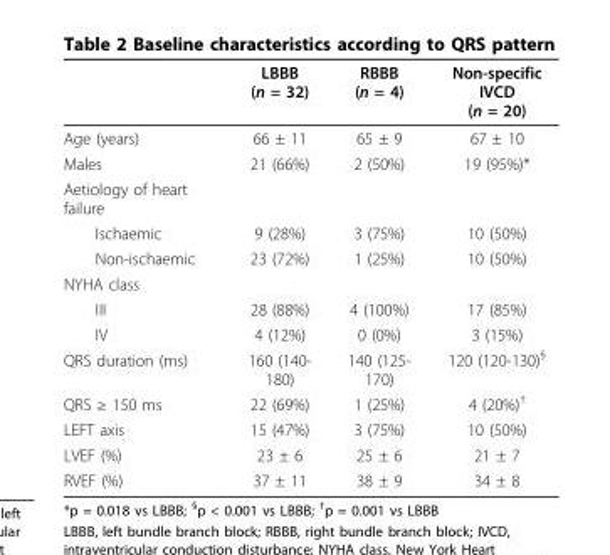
<table><thead><tr><td></td><td>LBBB (n = 32)</td><td>RBBB (n = 4)</td><td>Non-specific IVCD (n = 20)</td></tr></thead><tbody><tr><td>Age (years)</td><td>66 ± 11</td><td>65 ± 9</td><td>67 ± 10</td></tr><tr><td>Males</td><td>21 (66%)</td><td>2 (50%)</td><td>19 (95%)*</td></tr><tr><td colspan="4">Aetiology of heart failure</td></tr><tr><td>Ischaemic</td><td>9 (28%)</td><td>3 (75%)</td><td>10 (50%)</td></tr><tr><td>Non-ischaemic</td><td>23 (72%)</td><td>1 (25%)</td><td>10 (50%)</td></tr><tr><td colspan="4">NYHA class</td></tr><tr><td>III</td><td>28 (88%)</td><td>4 (100%)</td><td>17 (85%)</td></tr><tr><td>IV</td><td>4 (12%)</td><td>0 (0%)</td><td>3 (15%)</td></tr><tr><td>QRS duration (ms)</td><td>160 (140- 180)</td><td>140 (125- 170)</td><td>120 (120-130)<sup>§</sup></td></tr><tr><td>QRS ≥ 150 ms</td><td>22 (69%)</td><td>1 (25%)</td><td>4 (20%)<sup>†</sup></td></tr><tr><td>LEFT axis</td><td>15 (47%)</td><td>3 (75%)</td><td>10 (50%)</td></tr><tr><td>LVEF (%)</td><td>23 ± 6</td><td>25 ± 6</td><td>21 ± 7</td></tr><tr><td>RVEF (%)</td><td>37 ± 11</td><td>38 ± 9</td><td>34 ± 8</td></tr></tbody></table>